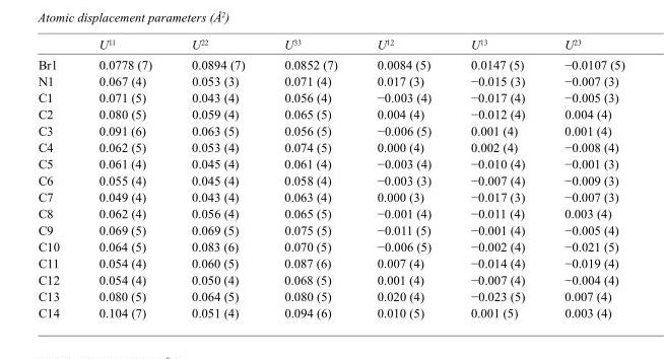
<table><thead><tr><td></td><td>U<sup>11</sup></td><td>U<sup>22</sup></td><td>U<sup>33</sup></td><td>U<sup>12</sup></td><td>U<sup>13</sup></td><td>U<sup>23</sup></td></tr></thead><tbody><tr><td>Br1</td><td>0.0778 (7)</td><td>0.0894 (7)</td><td>0.0852 (7)</td><td>0.0084 (5)</td><td>0.0147 (5)</td><td>−0.0107 (5)</td></tr><tr><td>N1</td><td>0.067 (4)</td><td>0.053 (3)</td><td>0.071 (4)</td><td>0.017 (3)</td><td>−0.015 (3)</td><td>−0.007 (3)</td></tr><tr><td>C1</td><td>0.071 (5)</td><td>0.043 (4)</td><td>0.056 (4)</td><td>−0.003 (4)</td><td>−0.017 (4)</td><td>−0.005 (3)</td></tr><tr><td>C2</td><td>0.080 (5)</td><td>0.059 (4)</td><td>0.065 (5)</td><td>0.004 (4)</td><td>−0.012 (4)</td><td>0.004 (4)</td></tr><tr><td>C3</td><td>0.091 (6)</td><td>0.063 (5)</td><td>0.056 (5)</td><td>−0.006 (5)</td><td>0.001 (4)</td><td>0.001 (4)</td></tr><tr><td>C4</td><td>0.062 (5)</td><td>0.053 (4)</td><td>0.074 (5)</td><td>0.000 (4)</td><td>0.002 (4)</td><td>−0.008 (4)</td></tr><tr><td>C5</td><td>0.061 (4)</td><td>0.045 (4)</td><td>0.061 (4)</td><td>−0.003 (4)</td><td>−0.010 (4)</td><td>−0.001 (3)</td></tr><tr><td>C6</td><td>0.055 (4)</td><td>0.045 (4)</td><td>0.058 (4)</td><td>−0.003 (3)</td><td>−0.007 (4)</td><td>−0.009 (3)</td></tr><tr><td>C7</td><td>0.049 (4)</td><td>0.043 (4)</td><td>0.063 (4)</td><td>0.000 (3)</td><td>−0.017 (3)</td><td>−0.007 (3)</td></tr><tr><td>C8</td><td>0.062 (4)</td><td>0.056 (4)</td><td>0.065 (5)</td><td>−0.001 (4)</td><td>−0.011 (4)</td><td>0.003 (4)</td></tr><tr><td>C9</td><td>0.069 (5)</td><td>0.069 (5)</td><td>0.075 (5)</td><td>−0.011 (5)</td><td>−0.001 (4)</td><td>−0.005 (4)</td></tr><tr><td>C10</td><td>0.064 (5)</td><td>0.083 (6)</td><td>0.070 (5)</td><td>−0.006 (5)</td><td>−0.002 (4)</td><td>−0.021 (5)</td></tr><tr><td>C11</td><td>0.054 (4)</td><td>0.060 (5)</td><td>0.087 (6)</td><td>0.007 (4)</td><td>−0.014 (4)</td><td>−0.019 (4)</td></tr><tr><td>C12</td><td>0.054 (4)</td><td>0.050 (4)</td><td>0.068 (5)</td><td>0.001 (4)</td><td>−0.007 (4)</td><td>−0.004 (4)</td></tr><tr><td>C13</td><td>0.080 (5)</td><td>0.064 (5)</td><td>0.080 (5)</td><td>0.020 (4)</td><td>−0.023 (5)</td><td>0.007 (4)</td></tr><tr><td>C14</td><td>0.104 (7)</td><td>0.051 (4)</td><td>0.094 (6)</td><td>0.010 (5)</td><td>0.001 (5)</td><td>0.003 (4)</td></tr></tbody></table>